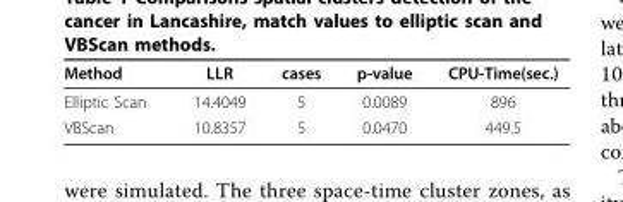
<table><thead><tr><td>Method</td><td>LLR</td><td>cases</td><td>p-value</td><td>CPU-Time(sec.)</td></tr></thead><tbody><tr><td>Elliptic Scan</td><td>14.4049</td><td>5</td><td>0.0089</td><td>896</td></tr><tr><td>VBScan</td><td>10.8357</td><td>5</td><td>0.0470</td><td>449.5</td></tr></tbody></table>